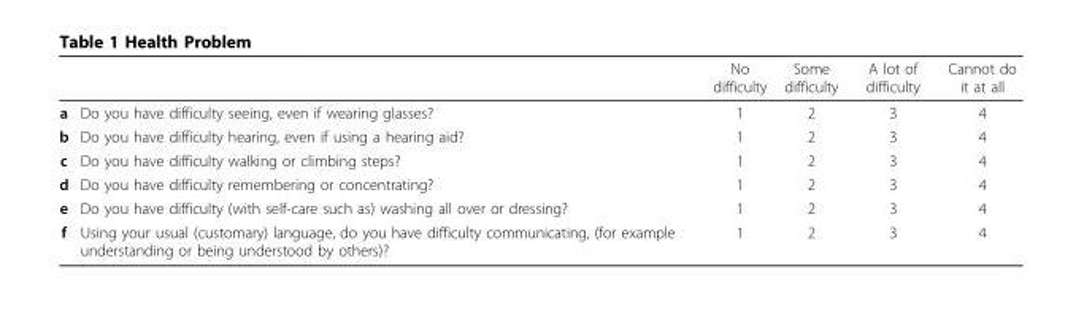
<table><thead><tr><td></td><td></td><td>No difficulty</td><td>Some difficulty</td><td>A lot of difficulty</td><td>Cannot do it at all</td></tr></thead><tbody><tr><td>a</td><td>Do you have difficulty seeing, even if wearing glasses?</td><td>1</td><td>2</td><td>3</td><td>4</td></tr><tr><td>b</td><td>Do you have difficulty hearing, even if using a hearing aid?</td><td>1</td><td>2</td><td>3</td><td>4</td></tr><tr><td>c</td><td>Do you have difficulty walking or climbing steps?</td><td>1</td><td>2</td><td>3</td><td>4</td></tr><tr><td>d</td><td>Do you have difficulty remembering or concentrating?</td><td>1</td><td>2</td><td>3</td><td>4</td></tr><tr><td>e</td><td>Do you have difficulty (with self-care such as) washing all over or dressing?</td><td>1</td><td>2</td><td>3</td><td>4</td></tr><tr><td>f</td><td>Using your usual (customary) language, do you have difficulty communicating, (for example understanding or being understood by others)?</td><td>1</td><td>2</td><td>3</td><td>4</td></tr></tbody></table>